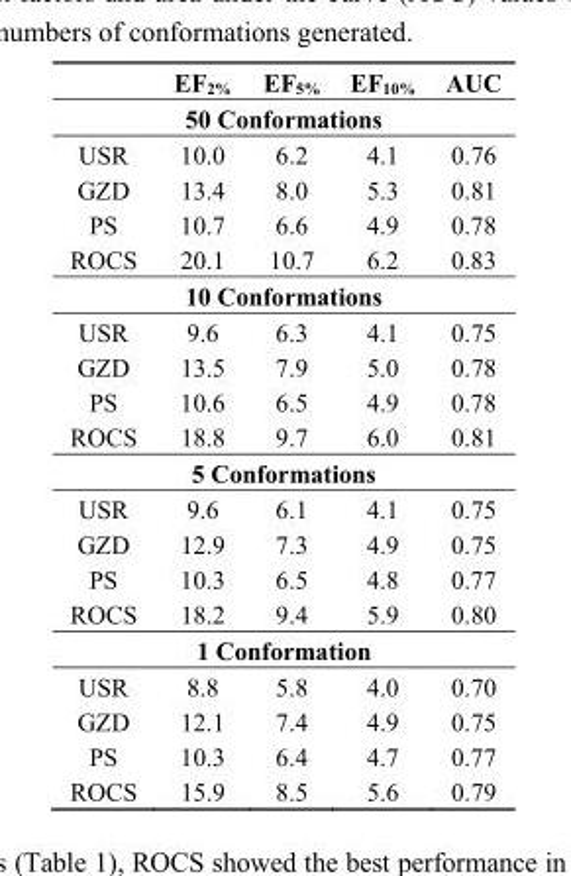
<table><thead><tr><td></td><td>EF<sub>2%</sub></td><td>EF<sub>5%</sub></td><td>EF<sub>10%</sub></td><td>AUC</td></tr></thead><tbody><tr><td colspan="5">50 Conformations</td></tr><tr><td>USR</td><td>10.0</td><td>6.2</td><td>4.1</td><td>0.76</td></tr><tr><td>GZD</td><td>13.4</td><td>8.0</td><td>5.3</td><td>0.81</td></tr><tr><td>PS</td><td>10.7</td><td>6.6</td><td>4.9</td><td>0.78</td></tr><tr><td>ROCS</td><td>20.1</td><td>10.7</td><td>6.2</td><td>0.83</td></tr><tr><td colspan="5">10 Conformations</td></tr><tr><td>USR</td><td>9.6</td><td>6.3</td><td>4.1</td><td>0.75</td></tr><tr><td>GZD</td><td>13.5</td><td>7.9</td><td>5.0</td><td>0.78</td></tr><tr><td>PS</td><td>10.6</td><td>6.5</td><td>4.9</td><td>0.78</td></tr><tr><td>ROCS</td><td>18.8</td><td>9.7</td><td>6.0</td><td>0.81</td></tr><tr><td colspan="5">5 Conformations</td></tr><tr><td>USR</td><td>9.6</td><td>6.1</td><td>4.1</td><td>0.75</td></tr><tr><td>GZD</td><td>12.9</td><td>7.3</td><td>4.9</td><td>0.75</td></tr><tr><td>PS</td><td>10.3</td><td>6.5</td><td>4.8</td><td>0.77</td></tr><tr><td>ROCS</td><td>18.2</td><td>9.4</td><td>5.9</td><td>0.80</td></tr><tr><td colspan="5">1 Conformation</td></tr><tr><td>USR</td><td>8.8</td><td>5.8</td><td>4.0</td><td>0.70</td></tr><tr><td>GZD</td><td>12.1</td><td>7.4</td><td>4.9</td><td>0.75</td></tr><tr><td>PS</td><td>10.3</td><td>6.4</td><td>4.7</td><td>0.77</td></tr><tr><td>ROCS</td><td>15.9</td><td>8.5</td><td>5.6</td><td>0.79</td></tr></tbody></table>